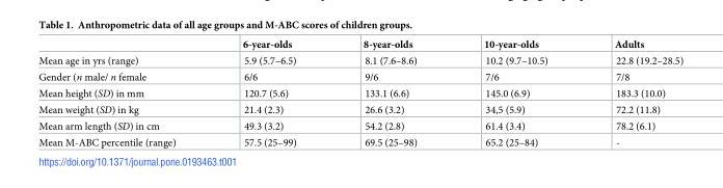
<table><thead><tr><td></td><td>6-year-olds</td><td>8-year-olds</td><td>10-year-olds</td><td>Adults</td></tr></thead><tbody><tr><td>Mean age in yrs (range)</td><td>5.9 (5.7–6.5)</td><td>8.1 (7.6–8.6)</td><td>10.2 (9.7–10.5)</td><td>22.8 (19.2–28.5)</td></tr><tr><td>Gender (n male/ n female</td><td>6/6</td><td>9/6</td><td>7/6</td><td>7/8</td></tr><tr><td>Mean height (SD) in mm</td><td>120.7 (5.6)</td><td>133.1 (6.6)</td><td>145.0 (6.9)</td><td>183.3 (10.0)</td></tr><tr><td>Mean weight (SD) in kg</td><td>21.4 (2.3)</td><td>26.6 (3.2)</td><td>34,5 (5.9)</td><td>72.2 (11.8)</td></tr><tr><td>Mean arm length (SD) in cm</td><td>49.3 (3.2)</td><td>54.2 (2.8)</td><td>61.4 (3.4)</td><td>78.2 (6.1)</td></tr><tr><td>Mean M-ABC percentile (range)</td><td>57.5 (25–99)</td><td>69.5 (25–98)</td><td>65.2 (25–84)</td><td>-</td></tr></tbody></table>